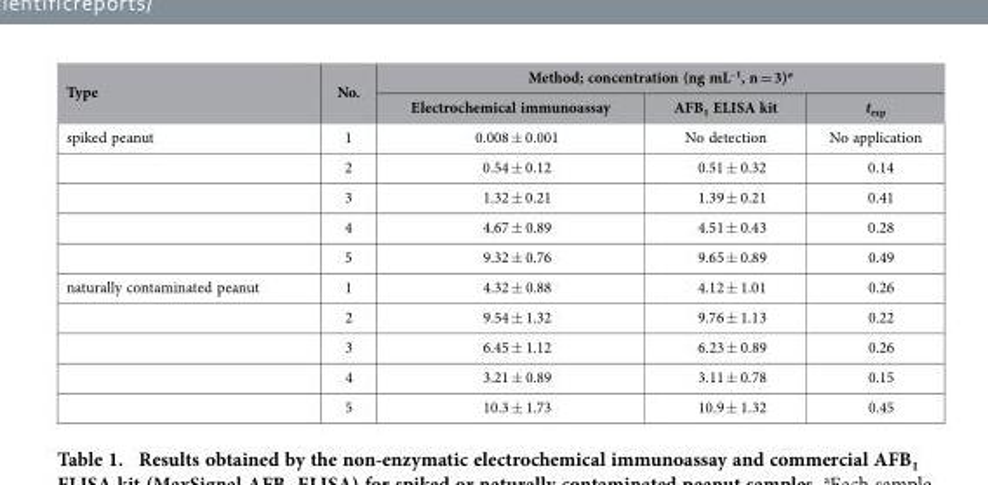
<table><tbody><tr><td rowspan="2">Type</td><td rowspan="2">No.</td><td colspan="3">Method; concentration (ng mL<sup>–1</sup>, n = 3)<sup>a</sup></td></tr><tr><td>Electrochemical immunoassay</td><td>AFB<sub>1</sub> ELISA kit</td><td>t<sub>exp</sub></td></tr><tr><td rowspan="5">spiked peanut</td><td>1</td><td>0.008 ± 0.001</td><td>No detection</td><td>No application</td></tr><tr><td>2</td><td>0.54 ± 0.12</td><td>0.51 ± 0.32</td><td>0.14</td></tr><tr><td>3</td><td>1.32 ± 0.21</td><td>1.39 ± 0.21</td><td>0.41</td></tr><tr><td>4</td><td>4.67 ± 0.89</td><td>4.51 ± 0.43</td><td>0.28</td></tr><tr><td>5</td><td>9.32 ± 0.76</td><td>9.65 ± 0.89</td><td>0.49</td></tr><tr><td rowspan="5">naturally contaminated peanut</td><td>1</td><td>4.32 ± 0.88</td><td>4.12 ± 1.01</td><td>0.26</td></tr><tr><td>2</td><td>9.54 ± 1.32</td><td>9.76 ± 1.13</td><td>0.22</td></tr><tr><td>3</td><td>6.45 ± 1.12</td><td>6.23 ± 0.89</td><td>0.26</td></tr><tr><td>4</td><td>3.21 ± 0.89</td><td>3.11 ± 0.78</td><td>0.15</td></tr><tr><td>5</td><td>10.3 ± 1.73</td><td>10.9 ± 1.32</td><td>0.45</td></tr></tbody></table>